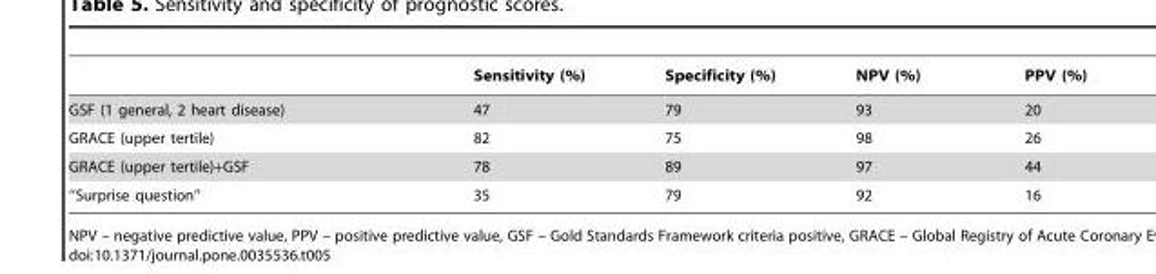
<table><thead><tr><td></td><td>Sensitivity (%)</td><td>Specificity (%)</td><td>NPV (%)</td><td>PPV (%)</td></tr></thead><tbody><tr><td>GSF (1 general, 2 heart disease)</td><td>47</td><td>79</td><td>93</td><td>20</td></tr><tr><td>GRACE (upper tertile)</td><td>82</td><td>75</td><td>98</td><td>26</td></tr><tr><td>GRACE (upper tertile)+GSF</td><td>78</td><td>89</td><td>97</td><td>44</td></tr><tr><td>‘‘Surprise question’’</td><td>35</td><td>79</td><td>92</td><td>16</td></tr></tbody></table>